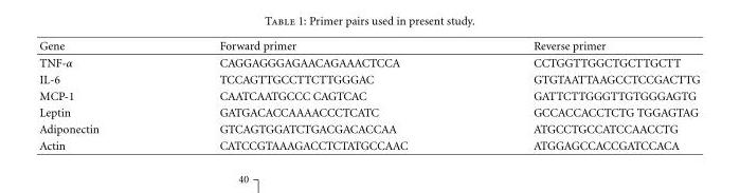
<table><thead><tr><td>Gene</td><td>Forward primer</td><td>Reverse primer</td></tr></thead><tbody><tr><td>TNF-α</td><td>CAGGAGGGAGAACAGAAACTCCA</td><td>CCTGGTTGGCTGCTTGCTT</td></tr><tr><td>IL-6</td><td>TCCAGTTGCCTTCTTGGGAC</td><td>GTGTAATTAAGCCTCCGACTTG</td></tr><tr><td>MCP-1</td><td>CAATCAATGCCC CAGTCAC</td><td>GATTCTTGGGTTGTGGGAGTG</td></tr><tr><td>Leptin</td><td>GATGACACCAAAACCCTCATC</td><td>GCCACCACCTCTG TGGAGTAG</td></tr><tr><td>Adiponectin</td><td>GTCAGTGGATCTGACGACACCAA</td><td>ATGCCTGCCATCCAACCTG</td></tr><tr><td>Actin</td><td>CATCCGTAAAGACCTCTATGCCAAC</td><td>ATGGAGCCACCGATCCACA</td></tr></tbody></table>